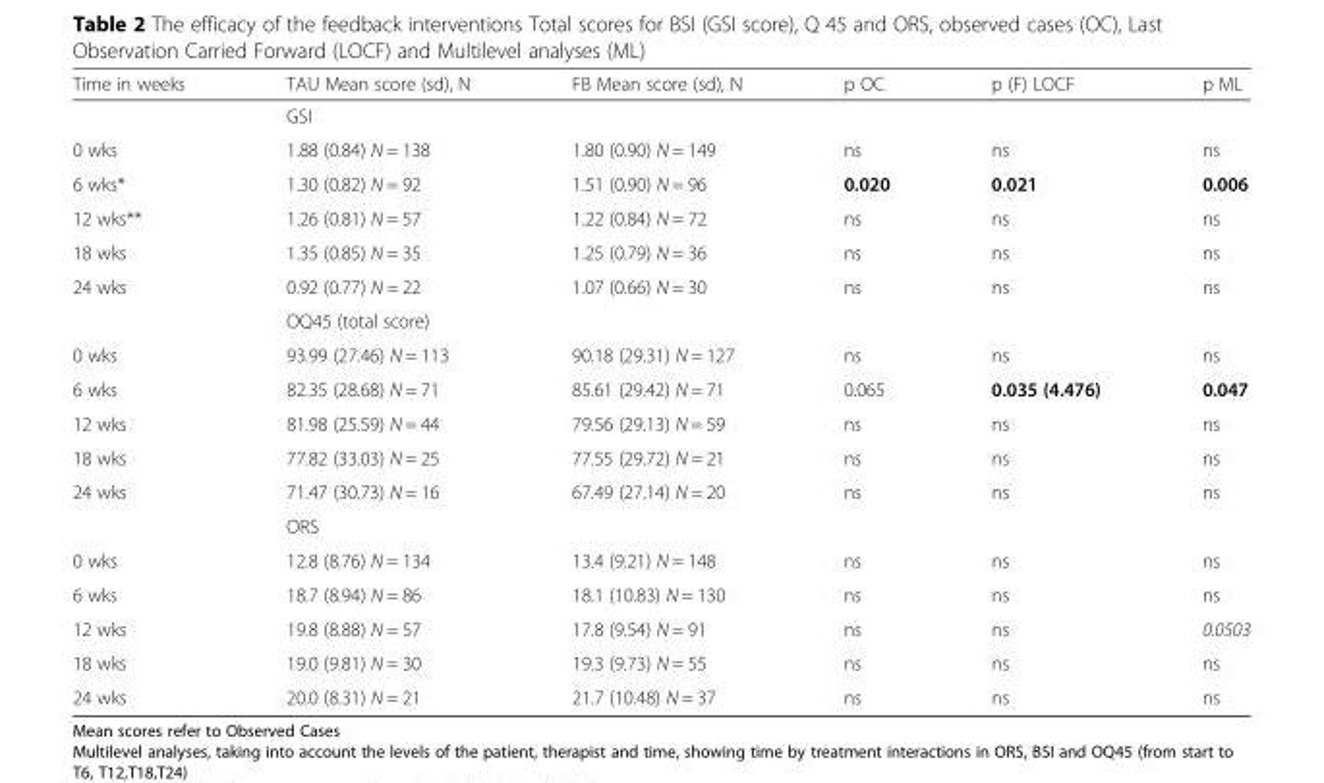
<table><thead><tr><td>Time in weeks</td><td>TAU Mean score (sd), N</td><td>FB Mean score (sd), N</td><td>p OC</td><td>p (F) LOCF</td><td>p ML</td></tr></thead><tbody><tr><td></td><td colspan="5">GSI</td></tr><tr><td>0 wks</td><td>1.88 (0.84) N = 138</td><td>1.80 (0.90) N = 149</td><td>ns</td><td>ns</td><td>ns</td></tr><tr><td>6 wks*</td><td>1.30 (0.82) N = 92</td><td>1.51 (0.90) N = 96</td><td>0.020</td><td>0.021</td><td>0.006</td></tr><tr><td>12 wks**</td><td>1.26 (0.81) N = 57</td><td>1.22 (0.84) N = 72</td><td>ns</td><td>ns</td><td>ns</td></tr><tr><td>18 wks</td><td>1.35 (0.85) N = 35</td><td>1.25 (0.79) N = 36</td><td>ns</td><td>ns</td><td>ns</td></tr><tr><td rowspan="2">24 wks</td><td>0.92 (0.77) N = 22</td><td>1.07 (0.66) N = 30</td><td>ns</td><td>ns</td><td>ns</td></tr><tr><td colspan="5">OQ45 (total score)</td></tr><tr><td>0 wks</td><td>93.99 (27.46) N = 113</td><td>90.18 (29.31) N = 127</td><td>ns</td><td>ns</td><td>ns</td></tr><tr><td>6 wks</td><td>82.35 (28.68) N = 71</td><td>85.61 (29.42) N = 71</td><td>0.065</td><td>0.035 (4.476)</td><td>0.047</td></tr><tr><td>12 wks</td><td>81.98 (25.59) N = 44</td><td>79.56 (29.13) N = 59</td><td>ns</td><td>ns</td><td>ns</td></tr><tr><td>18 wks</td><td>77.82 (33.03) N = 25</td><td>77.55 (29.72) N = 21</td><td>ns</td><td>ns</td><td>ns</td></tr><tr><td rowspan="2">24 wks</td><td>71.47 (30.73) N = 16</td><td>67.49 (27.14) N = 20</td><td>ns</td><td>ns</td><td>ns</td></tr><tr><td colspan="5">ORS</td></tr><tr><td>0 wks</td><td>12.8 (8.76) N = 134</td><td>13.4 (9.21) N = 148</td><td>ns</td><td>ns</td><td>ns</td></tr><tr><td>6 wks</td><td>18.7 (8.94) N = 86</td><td>18.1 (10.83) N = 130</td><td>ns</td><td>ns</td><td>ns</td></tr><tr><td>12 wks</td><td>19.8 (8.88) N = 57</td><td>17.8 (9.54) N = 91</td><td>ns</td><td>ns</td><td>0.0503</td></tr><tr><td>18 wks</td><td>19.0 (9.81) N = 30</td><td>19.3 (9.73) N = 55</td><td>ns</td><td>ns</td><td>ns</td></tr><tr><td>24 wks</td><td>20.0 (8.31) N = 21</td><td>21.7 (10.48) N = 37</td><td>ns</td><td>ns</td><td>ns</td></tr></tbody></table>